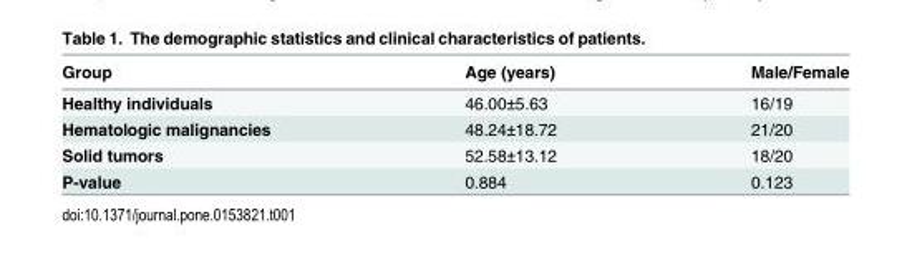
<table><thead><tr><td>Group</td><td>Age (years)</td><td>Male/Female</td></tr></thead><tbody><tr><td>Healthy individuals</td><td>46.00±5.63</td><td>16/19</td></tr><tr><td>Hematologic malignancies</td><td>48.24±18.72</td><td>21/20</td></tr><tr><td>Solid tumors</td><td>52.58±13.12</td><td>18/20</td></tr><tr><td>P-value</td><td>0.884</td><td>0.123</td></tr></tbody></table>